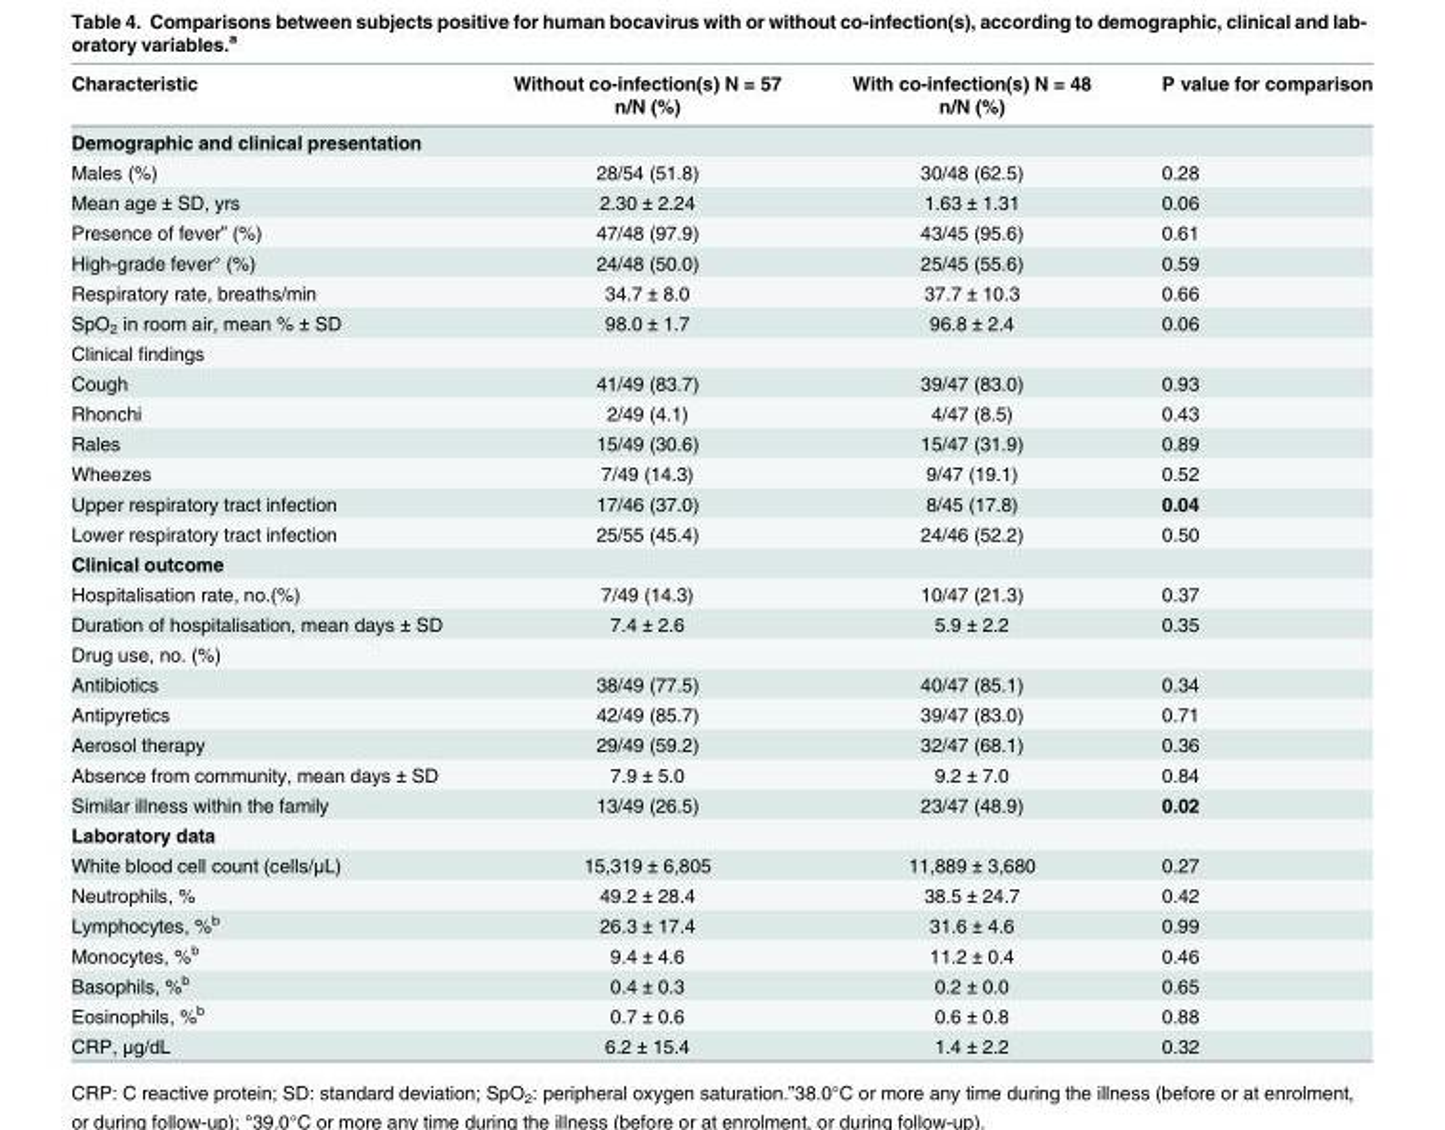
<table><thead><tr><td rowspan="2">Characteristic</td><td rowspan="2">Without co-infection(s) N = 57 n/N (%)</td><td rowspan="2">With co-infection(s) N = 48 n/N (%)</td><td rowspan="2">P value for comparison</td></tr><tr></tr></thead><tbody><tr><td colspan="4">Demographic and clinical presentation</td></tr><tr><td>Males (%)</td><td>28/54 (51.8)</td><td>30/48 (62.5)</td><td>0.28</td></tr><tr><td>Mean age ± SD, yrs</td><td>2.30 ± 2.24</td><td>1.63 ± 1.31</td><td>0.06</td></tr><tr><td>Presence of fever” (%)</td><td>47/48 (97.9)</td><td>43/45 (95.6)</td><td>0.61</td></tr><tr><td>High-grade fever° (%)</td><td>24/48 (50.0)</td><td>25/45 (55.6)</td><td>0.59</td></tr><tr><td>Respiratory rate, breaths/min</td><td>34.7 ± 8.0</td><td>37.7 ± 10.3</td><td>0.66</td></tr><tr><td>SpO<sub>2</sub> in room air, mean % ± SD</td><td>98.0 ± 1.7</td><td>96.8 ± 2.4</td><td>0.06</td></tr><tr><td colspan="4">Clinical findings</td></tr><tr><td>Cough</td><td>41/49 (83.7)</td><td>39/47 (83.0)</td><td>0.93</td></tr><tr><td>Rhonchi</td><td>2/49 (4.1)</td><td>4/47 (8.5)</td><td>0.43</td></tr><tr><td>Rales</td><td>15/49 (30.6)</td><td>15/47 (31.9)</td><td>0.89</td></tr><tr><td>Wheezes</td><td>7/49 (14.3)</td><td>9/47 (19.1)</td><td>0.52</td></tr><tr><td>Upper respiratory tract infection</td><td>17/46 (37.0)</td><td>8/45 (17.8)</td><td>0.04</td></tr><tr><td>Lower respiratory tract infection</td><td>25/55 (45.4)</td><td>24/46 (52.2)</td><td>0.50</td></tr><tr><td colspan="4">Clinical outcome</td></tr><tr><td>Hospitalisation rate, no.(%)</td><td>7/49 (14.3)</td><td>10/47 (21.3)</td><td>0.37</td></tr><tr><td>Duration of hospitalisation, mean days ± SD</td><td>7.4 ± 2.6</td><td>5.9 ± 2.2</td><td>0.35</td></tr><tr><td colspan="4">Drug use, no. (%)</td></tr><tr><td>Antibiotics</td><td>38/49 (77.5)</td><td>40/47 (85.1)</td><td>0.34</td></tr><tr><td>Antipyretics</td><td>42/49 (85.7)</td><td>39/47 (83.0)</td><td>0.71</td></tr><tr><td>Aerosol therapy</td><td>29/49 (59.2)</td><td>32/47 (68.1)</td><td>0.36</td></tr><tr><td>Absence from community, mean days ± SD</td><td>7.9 ± 5.0</td><td>9.2 ± 7.0</td><td>0.84</td></tr><tr><td>Similar illness within the family</td><td>13/49 (26.5)</td><td>23/47 (48.9)</td><td>0.02</td></tr><tr><td colspan="4">Laboratory data</td></tr><tr><td>White blood cell count (cells/μL)</td><td>15,319 ± 6,805</td><td>11,889 ± 3,680</td><td>0.27</td></tr><tr><td>Neutrophils, %</td><td>49.2 ± 28.4</td><td>38.5 ± 24.7</td><td>0.42</td></tr><tr><td>Lymphocytes, %<sup>b</sup></td><td>26.3 ± 17.4</td><td>31.6 ± 4.6</td><td>0.99</td></tr><tr><td>Monocytes, %<sup>b</sup></td><td>9.4 ± 4.6</td><td>11.2 ± 0.4</td><td>0.46</td></tr><tr><td>Basophils, %<sup>b</sup></td><td>0.4 ± 0.3</td><td>0.2 ± 0.0</td><td>0.65</td></tr><tr><td>Eosinophils, %<sup>b</sup></td><td>0.7 ± 0.6</td><td>0.6 ± 0.8</td><td>0.88</td></tr><tr><td>CRP, μg/dL</td><td>6.2 ± 15.4</td><td>1.4 ± 2.2</td><td>0.32</td></tr></tbody></table>